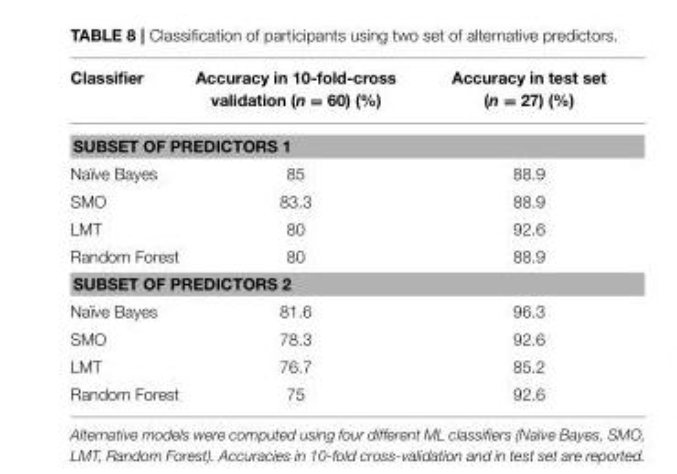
<table><thead><tr><td>Classifier</td><td>Accuracy in 10-fold-cross validation (n = 60) (%)</td><td>Accuracy in test set (n = 27) (%)</td></tr></thead><tbody><tr><td colspan="3">SUBSET OF PREDICTORS 1</td></tr><tr><td>Naïve Bayes</td><td>85</td><td>88.9</td></tr><tr><td>SMO</td><td>83.3</td><td>88.9</td></tr><tr><td>LMT</td><td>80</td><td>92.6</td></tr><tr><td>Random Forest</td><td>80</td><td>88.9</td></tr><tr><td colspan="3">SUBSET OF PREDICTORS 2</td></tr><tr><td>Naïve Bayes</td><td>81.6</td><td>96.3</td></tr><tr><td>SMO</td><td>78.3</td><td>92.6</td></tr><tr><td>LMT</td><td>76.7</td><td>85.2</td></tr><tr><td>Random Forest</td><td>75</td><td>92.6</td></tr></tbody></table>